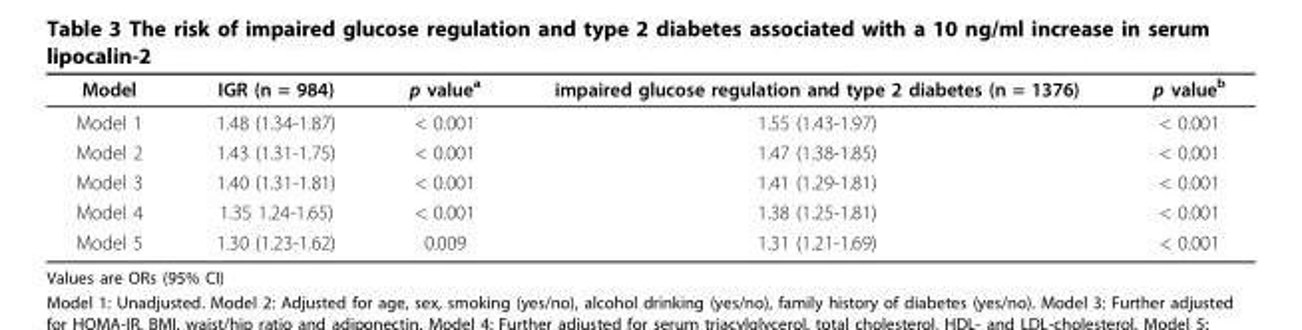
<table><thead><tr><td>Model</td><td>IGR (n = 984)</td><td>p value<sup>a</sup></td><td>impaired glucose regulation and type 2 diabetes (n = 1376)</td><td>p value<sup>b</sup></td></tr></thead><tbody><tr><td>Model 1</td><td>1.48 (1.34-1.87)</td><td>&lt; 0.001</td><td>1.55 (1.43-1.97)</td><td>&lt; 0.001</td></tr><tr><td>Model 2</td><td>1.43 (1.31-1.75)</td><td>&lt; 0.001</td><td>1.47 (1.38-1.85)</td><td>&lt; 0.001</td></tr><tr><td>Model 3</td><td>1.40 (1.31-1.81)</td><td>&lt; 0.001</td><td>1.41 (1.29-1.81)</td><td>&lt; 0.001</td></tr><tr><td>Model 4</td><td>1.35 1.24-1.65)</td><td>&lt; 0.001</td><td>1.38 (1.25-1.81)</td><td>&lt; 0.001</td></tr><tr><td>Model 5</td><td>1.30 (1.23-1.62)</td><td>0.009</td><td>1.31 (1.21-1.69)</td><td>&lt; 0.001</td></tr></tbody></table>